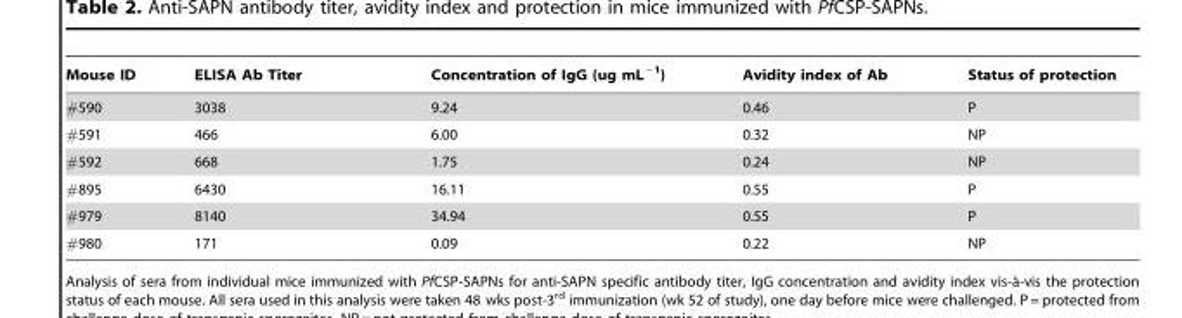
<table><thead><tr><td>Mouse ID</td><td>ELISA Ab Titer</td><td>Concentration of IgG (ug mL<sup>−1</sup>)</td><td>Avidity index of Ab</td><td>Status of protection</td></tr></thead><tbody><tr><td>#590</td><td>3038</td><td>9.24</td><td>0.46</td><td>P</td></tr><tr><td>#591</td><td>466</td><td>6.00</td><td>0.32</td><td>NP</td></tr><tr><td>#592</td><td>668</td><td>1.75</td><td>0.24</td><td>NP</td></tr><tr><td>#895</td><td>6430</td><td>16.11</td><td>0.55</td><td>P</td></tr><tr><td>#979</td><td>8140</td><td>34.94</td><td>0.55</td><td>P</td></tr><tr><td>#980</td><td>171</td><td>0.09</td><td>0.22</td><td>NP</td></tr></tbody></table>